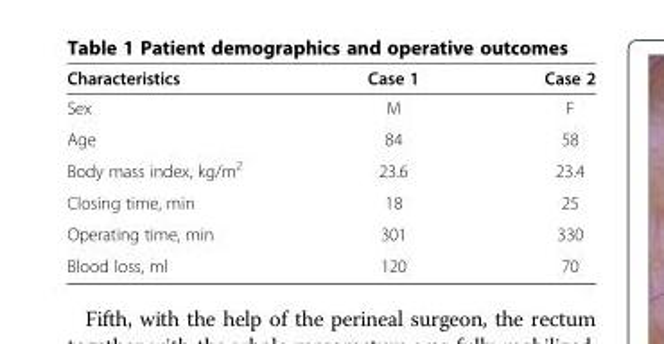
<table><thead><tr><td>Characteristics</td><td>Case 1</td><td>Case 2</td></tr></thead><tbody><tr><td>Sex</td><td>M</td><td>F</td></tr><tr><td>Age</td><td>84</td><td>58</td></tr><tr><td>Body mass index, kg/m<sup>2</sup></td><td>23.6</td><td>23.4</td></tr><tr><td>Closing time, min</td><td>18</td><td>25</td></tr><tr><td>Operating time, min</td><td>301</td><td>330</td></tr><tr><td>Blood loss, ml</td><td>120</td><td>70</td></tr></tbody></table>